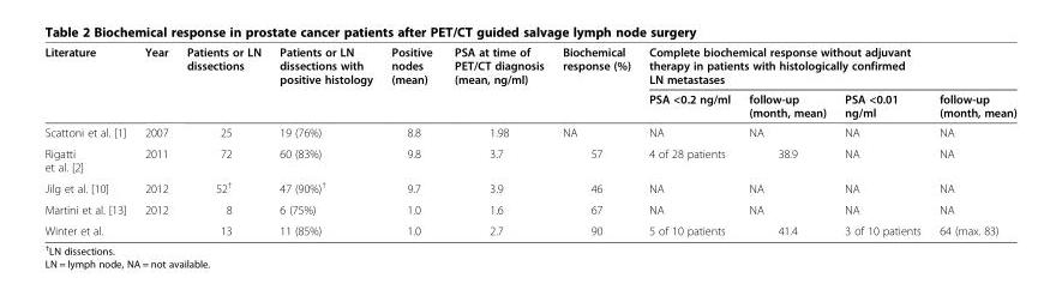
<table><thead><tr><td rowspan="2">Literature</td><td rowspan="2">Year</td><td rowspan="2">Patients or LN dissections</td><td rowspan="2">Patients or LN dissections with positive histology</td><td rowspan="2">Positive nodes (mean)</td><td rowspan="2">PSA at time of PET/CT diagnosis (mean, ng/ml)</td><td rowspan="2">Biochemical response (%)</td><td colspan="4">Complete biochemical response without adjuvant therapy in patients with histologically confirmed LN metastases</td></tr><tr><td>PSA &lt;0.2 ng/ml</td><td>follow-up (month, mean)</td><td>PSA &lt;0.01 ng/ml</td><td>follow-up (month, mean)</td></tr></thead><tbody><tr><td>Scattoni et al. [1]</td><td>2007</td><td>25</td><td>19 (76%)</td><td>8.8</td><td>1.98</td><td>NA</td><td>NA</td><td>NA</td><td>NA</td><td>NA</td></tr><tr><td>Rigatti et al. [2]</td><td>2011</td><td>72</td><td>60 (83%)</td><td>9.8</td><td>3.7</td><td>57</td><td>4 of 28 patients</td><td>38.9</td><td>NA</td><td>NA</td></tr><tr><td>Jilg et al. [10]</td><td>2012</td><td>52<sup>†</sup></td><td>47 (90%)<sup>†</sup></td><td>9.7</td><td>3.9</td><td>46</td><td>NA</td><td>NA</td><td>NA</td><td>NA</td></tr><tr><td>Martini et al. [13]</td><td>2012</td><td>8</td><td>6 (75%)</td><td>1.0</td><td>1.6</td><td>67</td><td>NA</td><td>NA</td><td>NA</td><td>NA</td></tr><tr><td>Winter et al.</td><td></td><td>13</td><td>11 (85%)</td><td>1.0</td><td>2.7</td><td>90</td><td>5 of 10 patients</td><td>41.4</td><td>3 of 10 patients</td><td>64 (max. 83)</td></tr></tbody></table>